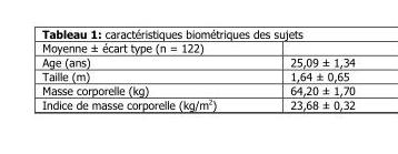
<table><thead><tr><td>Moyenne ± écart type (n = 122)</td><td></td></tr></thead><tbody><tr><td>Age (ans)</td><td>25,09 ± 1,34</td></tr><tr><td>Taille (m)</td><td>1,64 ± 0,65</td></tr><tr><td>Masse corporelle (kg)</td><td>64,20 ± 1,70</td></tr><tr><td>Indice de masse corporelle (kg/m<sup>2</sup>)</td><td>23,68 ± 0,32</td></tr></tbody></table>